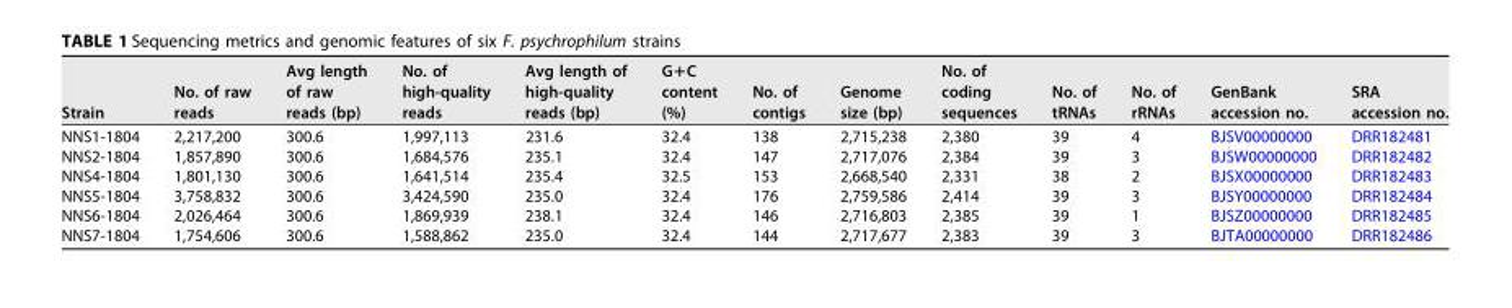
<table><thead><tr><td>Strain</td><td>No. of raw reads</td><td>Avg length of raw reads (bp)</td><td>No. of high-quality reads</td><td>Avg length of high-quality reads (bp)</td><td>G+C content (%)</td><td>No. of contigs</td><td>Genome size (bp)</td><td>No. of coding sequences</td><td>No. of tRNAs</td><td>No. of rRNAs</td><td>GenBank accession no.</td><td>SRA accession no.</td></tr></thead><tbody><tr><td>NNS1-1804</td><td>2,217,200</td><td>300.6</td><td>1,997,113</td><td>231.6</td><td>32.4</td><td>138</td><td>2,715,238</td><td>2,380</td><td>39</td><td>4</td><td>BJSV00000000</td><td>DRR182481</td></tr><tr><td>NNS2-1804</td><td>1,857,890</td><td>300.6</td><td>1,684,576</td><td>235.1</td><td>32.4</td><td>147</td><td>2,717,076</td><td>2,384</td><td>39</td><td>3</td><td>BJSW00000000</td><td>DRR182482</td></tr><tr><td>NNS4-1804</td><td>1,801,130</td><td>300.6</td><td>1,641,514</td><td>235.4</td><td>32.5</td><td>153</td><td>2,668,540</td><td>2,331</td><td>38</td><td>2</td><td>BJSX00000000</td><td>DRR182483</td></tr><tr><td>NNS5-1804</td><td>3,758,832</td><td>300.6</td><td>3,424,590</td><td>235.0</td><td>32.4</td><td>176</td><td>2,759,586</td><td>2,414</td><td>39</td><td>3</td><td>BJSY00000000</td><td>DRR182484</td></tr><tr><td>NNS6-1804</td><td>2,026,464</td><td>300.6</td><td>1,869,939</td><td>238.1</td><td>32.4</td><td>146</td><td>2,716,803</td><td>2,385</td><td>39</td><td>1</td><td>BJSZ00000000</td><td>DRR182485</td></tr><tr><td>NNS7-1804</td><td>1,754,606</td><td>300.6</td><td>1,588,862</td><td>235.0</td><td>32.4</td><td>144</td><td>2,717,677</td><td>2,383</td><td>39</td><td>3</td><td>BJTA00000000</td><td>DRR182486</td></tr></tbody></table>